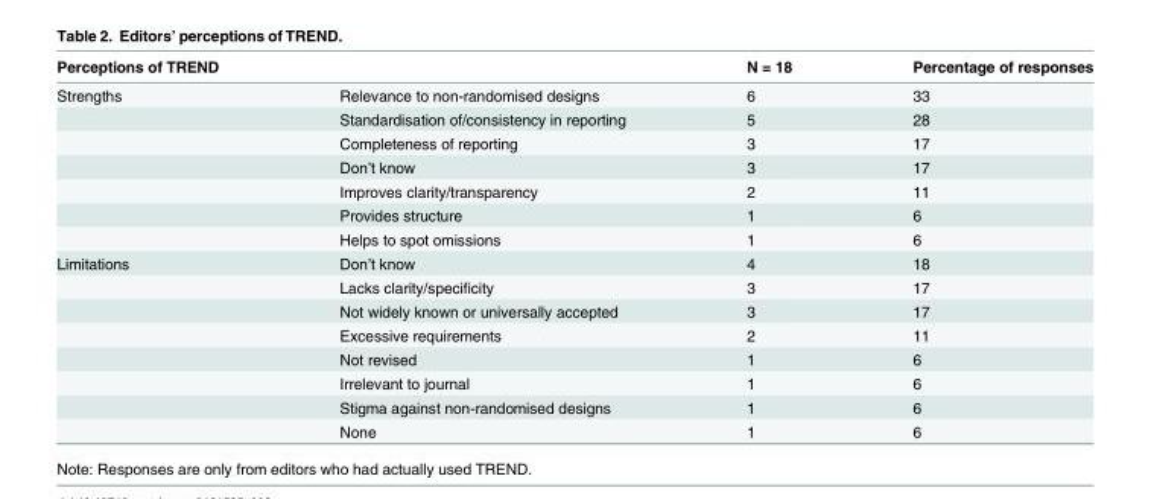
<table><thead><tr><td>Perceptions of TREND</td><td></td><td>N = 18</td><td>Percentage of responses</td></tr></thead><tbody><tr><td rowspan="7">Strengths</td><td>Relevance to non-randomised designs</td><td>6</td><td>33</td></tr><tr><td>Standardisation of/consistency in reporting</td><td>5</td><td>28</td></tr><tr><td>Completeness of reporting</td><td>3</td><td>17</td></tr><tr><td>Don’t know</td><td>3</td><td>17</td></tr><tr><td>Improves clarity/transparency</td><td>2</td><td>11</td></tr><tr><td>Provides structure</td><td>1</td><td>6</td></tr><tr><td>Helps to spot omissions</td><td>1</td><td>6</td></tr><tr><td rowspan="8">Limitations</td><td>Don’t know</td><td>4</td><td>18</td></tr><tr><td>Lacks clarity/specificity</td><td>3</td><td>17</td></tr><tr><td>Not widely known or universally accepted</td><td>3</td><td>17</td></tr><tr><td>Excessive requirements</td><td>2</td><td>11</td></tr><tr><td>Not revised</td><td>1</td><td>6</td></tr><tr><td>Irrelevant to journal</td><td>1</td><td>6</td></tr><tr><td>Stigma against non-randomised designs</td><td>1</td><td>6</td></tr><tr><td>None</td><td>1</td><td>6</td></tr></tbody></table>